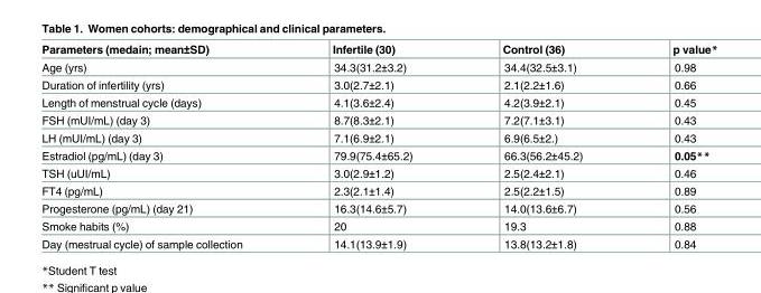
<table><thead><tr><td>Parameters (medain; mean±SD)</td><td>Infertile (30)</td><td>Control (36)</td><td>p value*</td></tr></thead><tbody><tr><td>Age (yrs)</td><td>34.3(31.2±3.2)</td><td>34.4(32.5±3.1)</td><td>0.98</td></tr><tr><td>Duration of infertility (yrs)</td><td>3.0(2.7±2.1)</td><td>2.1(2.2±1.6)</td><td>0.66</td></tr><tr><td>Length of menstrual cycle (days)</td><td>4.1(3.6±2.4)</td><td>4.2(3.9±2.1)</td><td>0.45</td></tr><tr><td>FSH (mUI/mL) (day 3)</td><td>8.7(8.3±2.1)</td><td>7.2(7.1±3.1)</td><td>0.43</td></tr><tr><td>LH (mUI/mL) (day 3)</td><td>7.1(6.9±2.1)</td><td>6.9(6.5±2.)</td><td>0.43</td></tr><tr><td>Estradiol (pg/mL) (day 3)</td><td>79.9(75.4±65.2)</td><td>66.3(56.2±45.2)</td><td>0.05**</td></tr><tr><td>TSH (uUI/mL)</td><td>3.0(2.9±1.2)</td><td>2.5(2.4±2.1)</td><td>0.46</td></tr><tr><td>FT4 (pg/mL)</td><td>2.3(2.1±1.4)</td><td>2.5(2.2±1.5)</td><td>0.89</td></tr><tr><td>Progesterone (pg/mL) (day 21)</td><td>16.3(14.6±5.7)</td><td>14.0(13.6±6.7)</td><td>0.56</td></tr><tr><td>Smoke habits (%)</td><td>20</td><td>19.3</td><td>0.88</td></tr><tr><td>Day (mestrual cycle) of sample collection</td><td>14.1(13.9±1.9)</td><td>13.8(13.2±1.8)</td><td>0.84</td></tr></tbody></table>